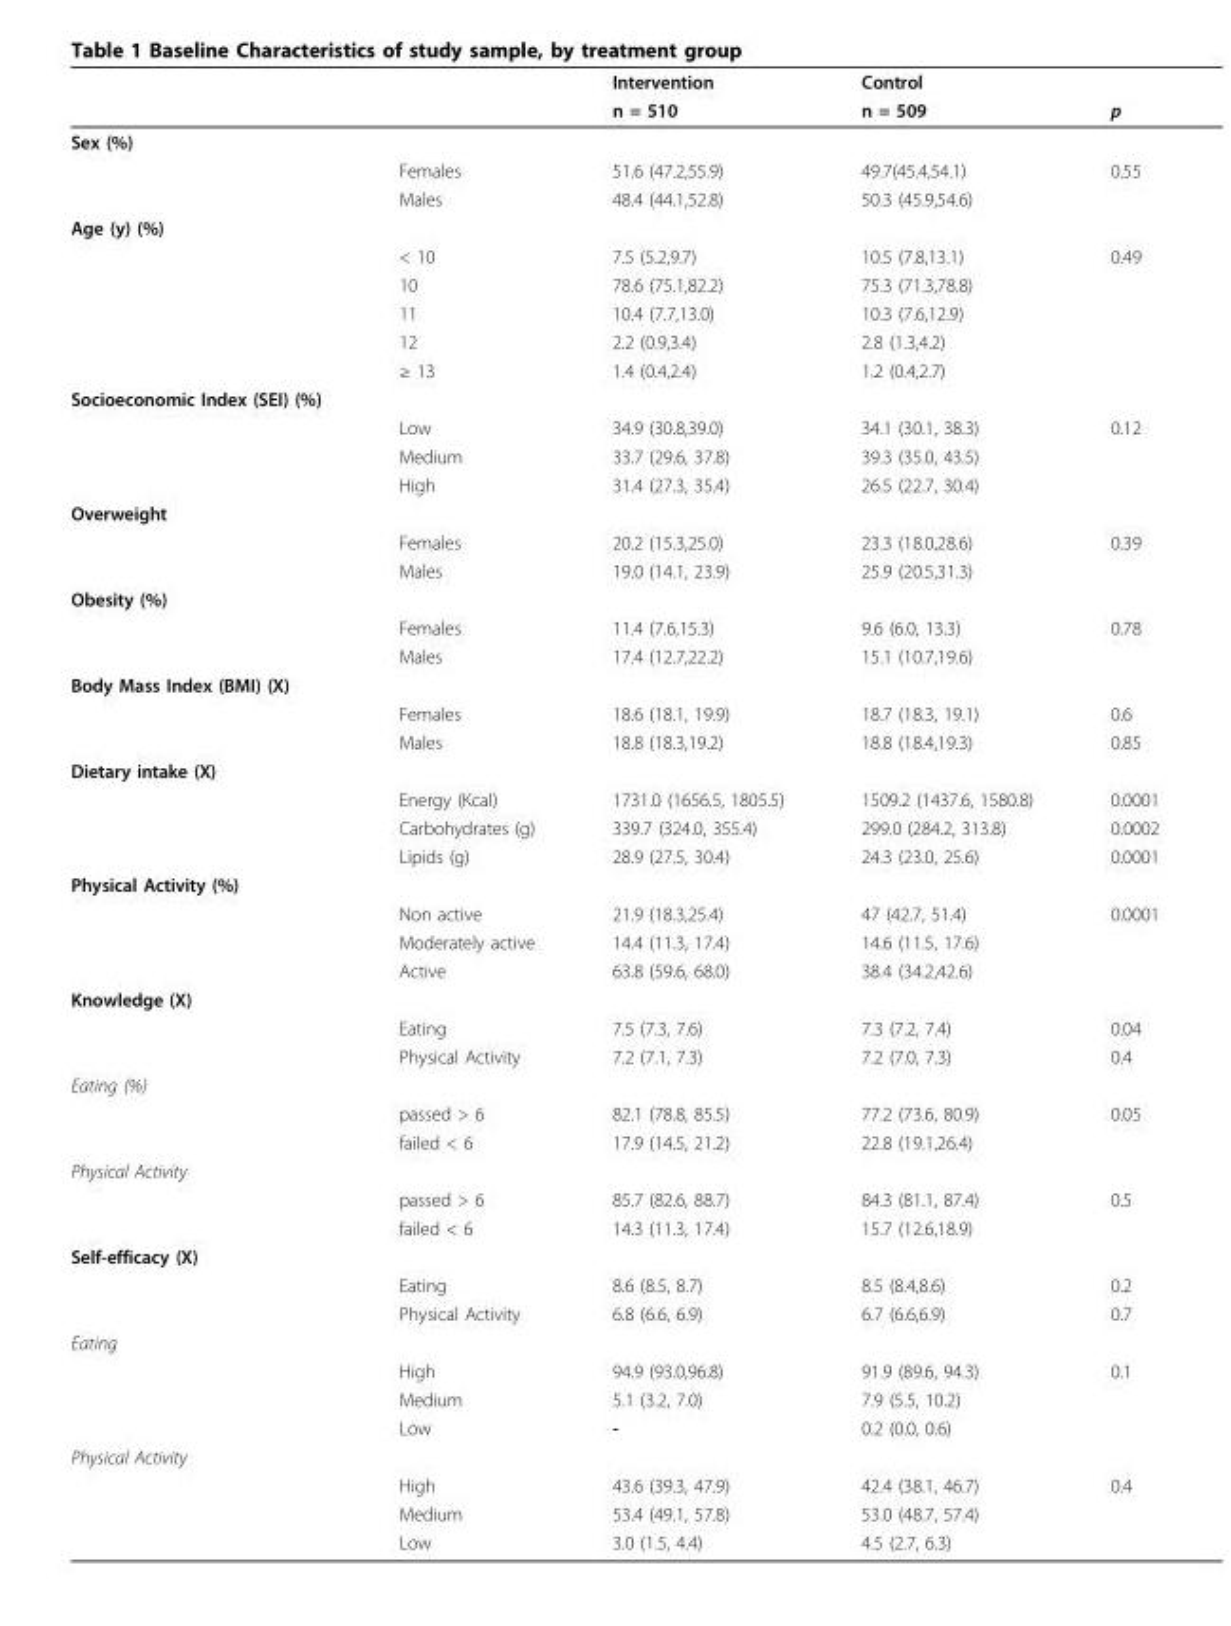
<table><thead><tr><td rowspan="2"></td><td rowspan="2"></td><td rowspan="2">Intervention n = 510</td><td rowspan="2">Control n = 509</td><td rowspan="2">p</td></tr><tr></tr></thead><tbody><tr><td colspan="5">Sex (%)</td></tr><tr><td></td><td>Females</td><td>51.6 (47.2,55.9)</td><td>49.7(45.4,54.1)</td><td>0.55</td></tr><tr><td></td><td>Males</td><td>48.4 (44.1,52.8)</td><td>50.3 (45.9,54.6)</td><td></td></tr><tr><td colspan="5">Age (y) (%)</td></tr><tr><td></td><td>&lt; 10</td><td>7.5 (5.2,9.7)</td><td>10.5 (7.8,13.1)</td><td>0.49</td></tr><tr><td></td><td>10</td><td>78.6 (75.1,82.2)</td><td>75.3 (71.3,78.8)</td><td></td></tr><tr><td></td><td>11</td><td>10.4 (7.7,13.0)</td><td>10.3 (7.6,12.9)</td><td></td></tr><tr><td></td><td>12</td><td>2.2 (0.9,3.4)</td><td>2.8 (1.3,4.2)</td><td></td></tr><tr><td></td><td>≥ 13</td><td>1.4 (0.4,2.4)</td><td>1.2 (0.4,2.7)</td><td></td></tr><tr><td colspan="5">Socioeconomic Index (SEI) (%)</td></tr><tr><td></td><td>Low</td><td>34.9 (30.8,39.0)</td><td>34.1 (30.1, 38.3)</td><td>0.12</td></tr><tr><td></td><td>Medium</td><td>33.7 (29.6, 37.8)</td><td>39.3 (35.0, 43.5)</td><td></td></tr><tr><td></td><td>High</td><td>31.4 (27.3, 35.4)</td><td>26.5 (22.7, 30.4)</td><td></td></tr><tr><td colspan="5">Overweight</td></tr><tr><td></td><td>Females</td><td>20.2 (15.3,25.0)</td><td>23.3 (18.0,28.6)</td><td>0.39</td></tr><tr><td></td><td>Males</td><td>19.0 (14.1, 23.9)</td><td>25.9 (20.5,31.3)</td><td></td></tr><tr><td colspan="5">Obesity (%)</td></tr><tr><td></td><td>Females</td><td>11.4 (7.6,15.3)</td><td>9.6 (6.0, 13.3)</td><td>0.78</td></tr><tr><td></td><td>Males</td><td>17.4 (12.7,22.2)</td><td>15.1 (10.7,19.6)</td><td></td></tr><tr><td colspan="5">Body Mass Index (BMI) (X)</td></tr><tr><td></td><td>Females</td><td>18.6 (18.1, 19.9)</td><td>18.7 (18.3, 19.1)</td><td>0.6</td></tr><tr><td></td><td>Males</td><td>18.8 (18.3,19.2)</td><td>18.8 (18.4,19.3)</td><td>0.85</td></tr><tr><td colspan="5">Dietary intake (X)</td></tr><tr><td></td><td>Energy (Kcal)</td><td>1731.0 (1656.5, 1805.5)</td><td>1509.2 (1437.6, 1580.8)</td><td>0.0001</td></tr><tr><td></td><td>Carbohydrates (g)</td><td>339.7 (324.0, 355.4)</td><td>299.0 (284.2, 313.8)</td><td>0.0002</td></tr><tr><td></td><td>Lipids (g)</td><td>28.9 (27.5, 30.4)</td><td>24.3 (23.0, 25.6)</td><td>0.0001</td></tr><tr><td colspan="5">Physical Activity (%)</td></tr><tr><td></td><td>Non active</td><td>21.9 (18.3,25.4)</td><td>47 (42.7, 51.4)</td><td>0.0001</td></tr><tr><td></td><td>Moderately active</td><td>14.4 (11.3, 17.4)</td><td>14.6 (11.5, 17.6)</td><td></td></tr><tr><td></td><td>Active</td><td>63.8 (59.6, 68.0)</td><td>38.4 (34.2,42.6)</td><td></td></tr><tr><td colspan="5">Knowledge (X)</td></tr><tr><td></td><td>Eating</td><td>7.5 (7.3, 7.6)</td><td>7.3 (7.2, 7.4)</td><td>0.04</td></tr><tr><td></td><td>Physical Activity</td><td>7.2 (7.1, 7.3)</td><td>7.2 (7.0, 7.3)</td><td>0.4</td></tr><tr><td colspan="5">Eating (%)</td></tr><tr><td></td><td>passed &gt; 6</td><td>82.1 (78.8, 85.5)</td><td>77.2 (73.6, 80.9)</td><td>0.05</td></tr><tr><td></td><td>failed &lt; 6</td><td>17.9 (14.5, 21.2)</td><td>22.8 (19.1,26.4)</td><td></td></tr><tr><td colspan="5">Physical Activity</td></tr><tr><td></td><td>passed &gt; 6</td><td>85.7 (82.6, 88.7)</td><td>84.3 (81.1, 87.4)</td><td>0.5</td></tr><tr><td></td><td>failed &lt; 6</td><td>14.3 (11.3, 17.4)</td><td>15.7 (12.6,18.9)</td><td></td></tr><tr><td colspan="5">Self-efficacy (X)</td></tr><tr><td></td><td>Eating</td><td>8.6 (8.5, 8.7)</td><td>8.5 (8.4,8.6)</td><td>0.2</td></tr><tr><td></td><td>Physical Activity</td><td>6.8 (6.6, 6.9)</td><td>6.7 (6.6,6.9)</td><td>0.7</td></tr><tr><td colspan="5">Eating</td></tr><tr><td></td><td>High</td><td>94.9 (93.0,96.8)</td><td>91.9 (89.6, 94.3)</td><td>0.1</td></tr><tr><td></td><td>Medium</td><td>5.1 (3.2, 7.0)</td><td>7.9 (5.5, 10.2)</td><td></td></tr><tr><td></td><td>Low</td><td>-</td><td>0.2 (0.0, 0.6)</td><td></td></tr><tr><td colspan="5">Physical Activity</td></tr><tr><td></td><td>High</td><td>43.6 (39.3, 47.9)</td><td>42.4 (38.1, 46.7)</td><td>0.4</td></tr><tr><td></td><td>Medium</td><td>53.4 (49.1, 57.8)</td><td>53.0 (48.7, 57.4)</td><td></td></tr><tr><td></td><td>Low</td><td>3.0 (1.5, 4.4)</td><td>4.5 (2.7, 6.3)</td><td></td></tr></tbody></table>